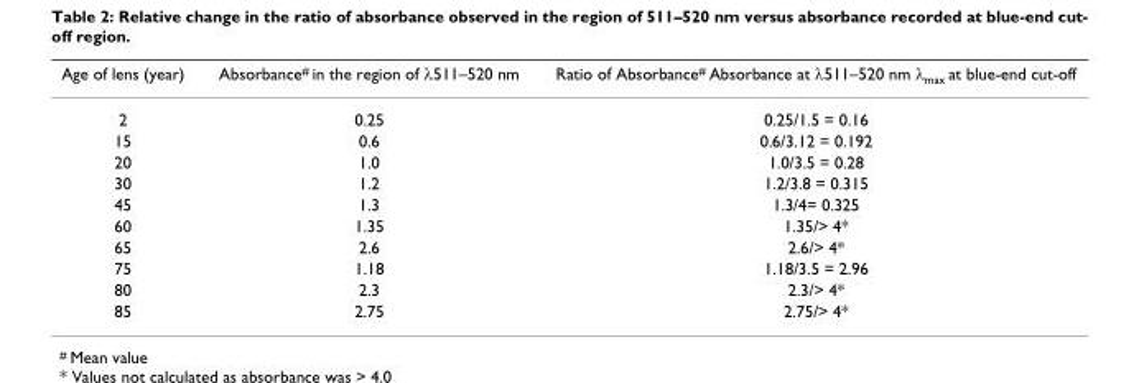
<table><thead><tr><td>Age of lens (year)</td><td>Absorbance<sup>#</sup> in the region of λ511–520 nm</td><td>Ratio of Absorbance<sup>#</sup> Absorbance at λ511–520 nm λ<sub>max</sub> at blue-end cut-off</td></tr></thead><tbody><tr><td>2</td><td>0.25</td><td>0.25/1.5 = 0.16</td></tr><tr><td>15</td><td>0.6</td><td>0.6/3.12 = 0.192</td></tr><tr><td>20</td><td>1.0</td><td>1.0/3.5 = 0.28</td></tr><tr><td>30</td><td>1.2</td><td>1.2/3.8 = 0.315</td></tr><tr><td>45</td><td>1.3</td><td>1.3/4= 0.325</td></tr><tr><td>60</td><td>1.35</td><td>1.35/&gt; 4*</td></tr><tr><td>65</td><td>2.6</td><td>2.6/&gt; 4*</td></tr><tr><td>75</td><td>1.18</td><td>1.18/3.5 = 2.96</td></tr><tr><td>80</td><td>2.3</td><td>2.3/&gt; 4*</td></tr><tr><td>85</td><td>2.75</td><td>2.75/&gt; 4*</td></tr></tbody></table>